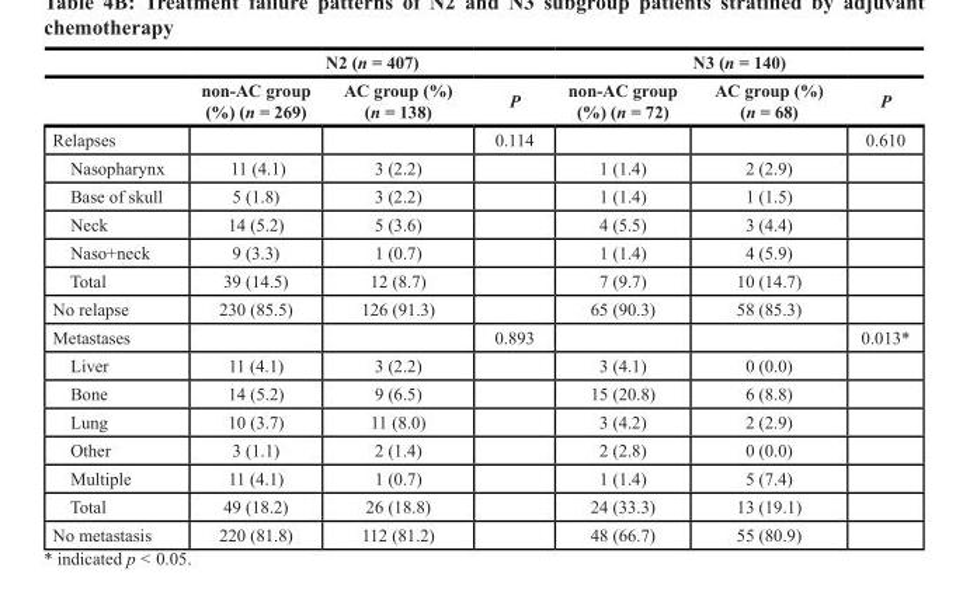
<table><thead><tr><td rowspan="2"></td><td colspan="3">N2 (n = 407)</td><td colspan="3">N3 (n = 140)</td></tr><tr><td>non-AC group (%) (n = 269)</td><td>AC group (%) (n = 138)</td><td>P</td><td>non-AC group (%) (n = 72)</td><td>AC group (%) (n = 68)</td><td>P</td></tr></thead><tbody><tr><td>Relapses</td><td></td><td></td><td>0.114</td><td></td><td></td><td>0.610</td></tr><tr><td>Nasopharynx</td><td>11 (4.1)</td><td>3 (2.2)</td><td></td><td>1 (1.4)</td><td>2 (2.9)</td><td></td></tr><tr><td>Base of skull</td><td>5 (1.8)</td><td>3 (2.2)</td><td></td><td>1 (1.4)</td><td>1 (1.5)</td><td></td></tr><tr><td>Neck</td><td>14 (5.2)</td><td>5 (3.6)</td><td></td><td>4 (5.5)</td><td>3 (4.4)</td><td></td></tr><tr><td>Naso+neck</td><td>9 (3.3)</td><td>1 (0.7)</td><td></td><td>1 (1.4)</td><td>4 (5.9)</td><td></td></tr><tr><td>Total</td><td>39 (14.5)</td><td>12 (8.7)</td><td></td><td>7 (9.7)</td><td>10 (14.7)</td><td></td></tr><tr><td>No relapse</td><td>230 (85.5)</td><td>126 (91.3)</td><td></td><td>65 (90.3)</td><td>58 (85.3)</td><td></td></tr><tr><td>Metastases</td><td></td><td></td><td>0.893</td><td></td><td></td><td>0.013*</td></tr><tr><td>Liver</td><td>11 (4.1)</td><td>3 (2.2)</td><td></td><td>3 (4.1)</td><td>0 (0.0)</td><td></td></tr><tr><td>Bone</td><td>14 (5.2)</td><td>9 (6.5)</td><td></td><td>15 (20.8)</td><td>6 (8.8)</td><td></td></tr><tr><td>Lung</td><td>10 (3.7)</td><td>11 (8.0)</td><td></td><td>3 (4.2)</td><td>2 (2.9)</td><td></td></tr><tr><td>Other</td><td>3 (1.1)</td><td>2 (1.4)</td><td></td><td>2 (2.8)</td><td>0 (0.0)</td><td></td></tr><tr><td>Multiple</td><td>11 (4.1)</td><td>1 (0.7)</td><td></td><td>1 (1.4)</td><td>5 (7.4)</td><td></td></tr><tr><td>Total</td><td>49 (18.2)</td><td>26 (18.8)</td><td></td><td>24 (33.3)</td><td>13 (19.1)</td><td></td></tr><tr><td>No metastasis</td><td>220 (81.8)</td><td>112 (81.2)</td><td></td><td>48 (66.7)</td><td>55 (80.9)</td><td></td></tr></tbody></table>